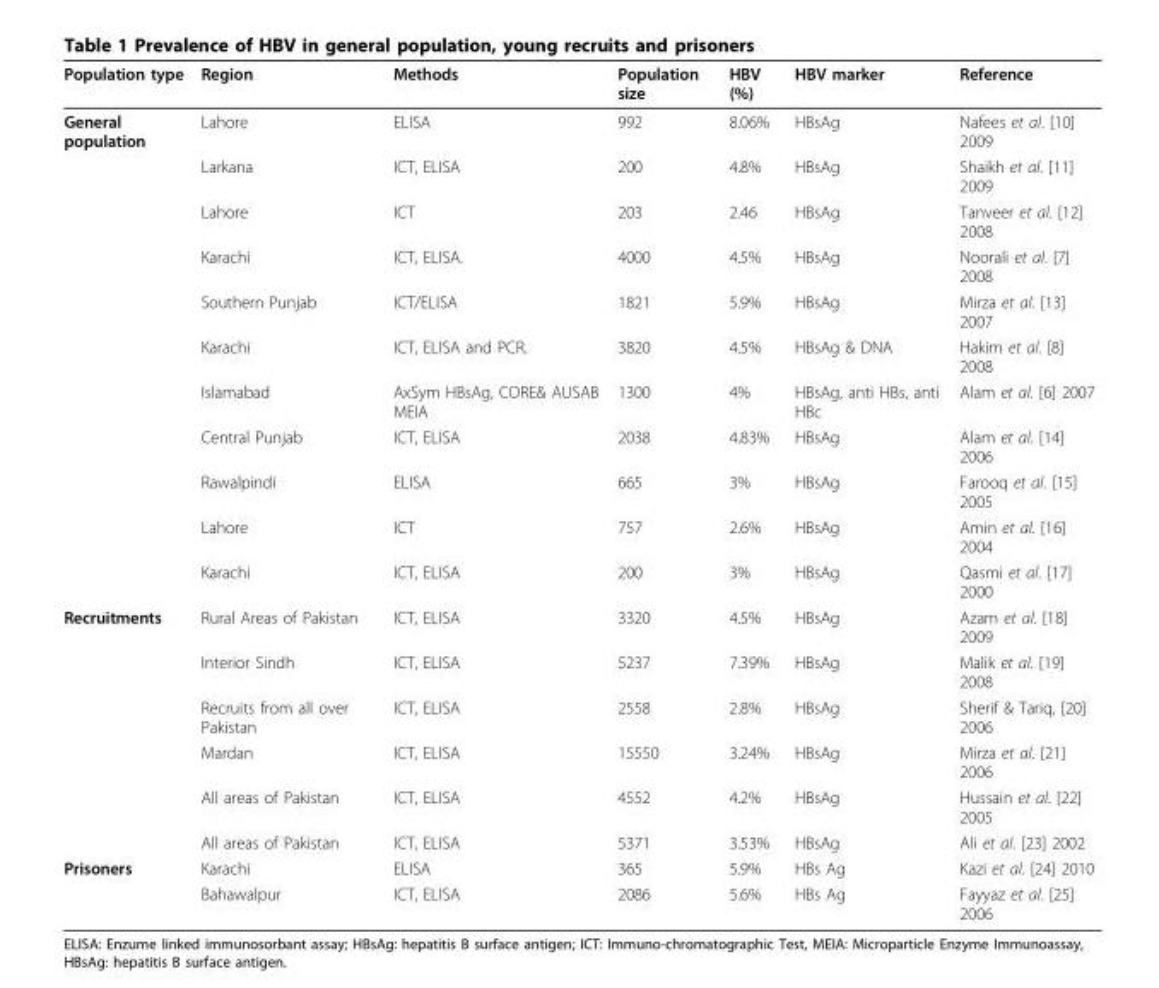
<table><thead><tr><td>Population type</td><td>Region</td><td>Methods</td><td>Population size</td><td>HBV (%)</td><td>HBV marker</td><td>Reference</td></tr></thead><tbody><tr><td rowspan="11">General population</td><td>Lahore</td><td>ELISA</td><td>992</td><td>8.06%</td><td>HBsAg</td><td>Nafees et al. [10] 2009</td></tr><tr><td>Larkana</td><td>ICT, ELISA</td><td>200</td><td>4.8%</td><td>HBsAg</td><td>Shaikh et al. [11] 2009</td></tr><tr><td>Lahore</td><td>ICT</td><td>203</td><td>2.46</td><td>HBsAg</td><td>Tanveer et al. [12] 2008</td></tr><tr><td>Karachi</td><td>ICT, ELISA.</td><td>4000</td><td>4.5%</td><td>HBsAg</td><td>Noorali et al. [7] 2008</td></tr><tr><td>Southern Punjab</td><td>ICT/ELISA</td><td>1821</td><td>5.9%</td><td>HBsAg</td><td>Mirza et al. [13] 2007</td></tr><tr><td>Karachi</td><td>ICT, ELISA and PCR.</td><td>3820</td><td>4.5%</td><td>HBsAg &amp; DNA</td><td>Hakim et al. [8] 2008</td></tr><tr><td>Islamabad</td><td>AxSym HBsAg, CORE&amp; AUSAB MEIA</td><td>1300</td><td>4%</td><td>HBsAg, anti HBs, anti HBc</td><td>Alam et al. [6] 2007</td></tr><tr><td>Central Punjab</td><td>ICT, ELISA</td><td>2038</td><td>4.83%</td><td>HBsAg</td><td>Alam et al. [14] 2006</td></tr><tr><td>Rawalpindi</td><td>ELISA</td><td>665</td><td>3%</td><td>HBsAg</td><td>Farooq et al. [15] 2005</td></tr><tr><td>Lahore</td><td>ICT</td><td>757</td><td>2.6%</td><td>HBsAg</td><td>Amin et al. [16] 2004</td></tr><tr><td>Karachi</td><td>ICT, ELISA</td><td>200</td><td>3%</td><td>HBsAg</td><td>Qasmi et al. [17] 2000</td></tr><tr><td rowspan="6">Recruitments</td><td>Rural Areas of Pakistan</td><td>ICT, ELISA</td><td>3320</td><td>4.5%</td><td>HBsAg</td><td>Azam et al. [18] 2009</td></tr><tr><td>Interior Sindh</td><td>ICT, ELISA</td><td>5237</td><td>7.39%</td><td>HBsAg</td><td>Malik et al. [19] 2008</td></tr><tr><td>Recruits from all over Pakistan</td><td>ICT, ELISA</td><td>2558</td><td>2.8%</td><td>HBsAg</td><td>Sherif &amp; Tariq, [20] 2006</td></tr><tr><td>Mardan</td><td>ICT, ELISA</td><td>15550</td><td>3.24%</td><td>HBsAg</td><td>Mirza et al. [21] 2006</td></tr><tr><td>All areas of Pakistan</td><td>ICT, ELISA</td><td>4552</td><td>4.2%</td><td>HBsAg</td><td>Hussain et al. [22] 2005</td></tr><tr><td>All areas of Pakistan</td><td>ICT, ELISA</td><td>5371</td><td>3.53%</td><td>HBsAg</td><td>Ali et al. [23] 2002</td></tr><tr><td rowspan="2">Prisoners</td><td>Karachi</td><td>ELISA</td><td>365</td><td>5.9%</td><td>HBs Ag</td><td>Kazi et al. [24] 2010</td></tr><tr><td>Bahawalpur</td><td>ICT, ELISA</td><td>2086</td><td>5.6%</td><td>HBs Ag</td><td>Fayyaz et al. [25] 2006</td></tr></tbody></table>